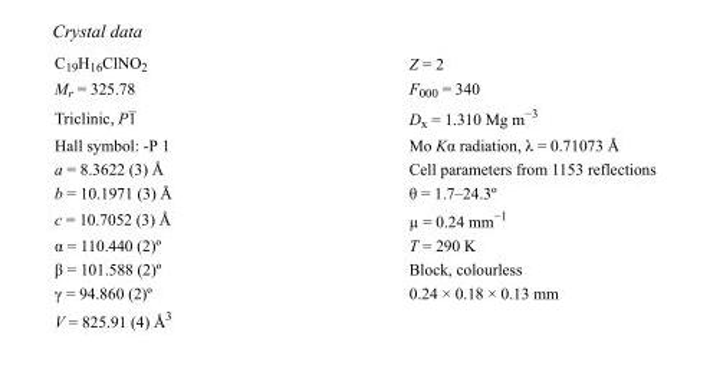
<table><tbody><tr><td>C<sub>19</sub>H<sub>16</sub>ClNO<sub>2</sub></td><td>Z = 2</td></tr><tr><td>M<sub>r</sub> = 325.78</td><td>F000 = 340</td></tr><tr><td>Triclinic, P1</td><td>D<sub>x</sub> = 1.310 Mg m<sup>−3</sup></td></tr><tr><td>Hall symbol: -P 1</td><td>Mo Kα radiation, λ = 0.71073 Å</td></tr><tr><td>a = 8.3622 (3) Å</td><td>Cell parameters from 1153 reflections</td></tr><tr><td>b = 10.1971 (3) Å</td><td>θ = 1.7–24.3º</td></tr><tr><td>c = 10.7052 (3) Å</td><td>µ = 0.24 mm<sup>−1</sup></td></tr><tr><td>α = 110.440 (2)º</td><td>T = 290 K</td></tr><tr><td>β = 101.588 (2)º</td><td>Block, colourless</td></tr><tr><td>γ = 94.860 (2)º</td><td>0.24 × 0.18 × 0.13 mm</td></tr><tr><td>V = 825.91 (4) Å<sup>3</sup></td><td></td></tr></tbody></table>